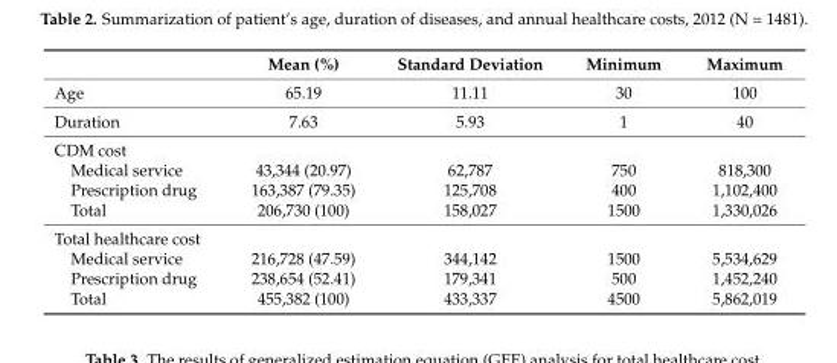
<table><thead><tr><td></td><td>Mean (%)</td><td>Standard Deviation</td><td>Minimum</td><td>Maximum</td></tr></thead><tbody><tr><td>Age</td><td>65.19</td><td>11.11</td><td>30</td><td>100</td></tr><tr><td>Duration</td><td>7.63</td><td>5.93</td><td>1</td><td>40</td></tr><tr><td colspan="5">CDM cost</td></tr><tr><td>Medical service</td><td>43,344 (20.97)</td><td>62,787</td><td>750</td><td>818,300</td></tr><tr><td>Prescription drug</td><td>163,387 (79.35)</td><td>125,708</td><td>400</td><td>1,102,400</td></tr><tr><td>Total</td><td>206,730 (100)</td><td>158,027</td><td>1500</td><td>1,330,026</td></tr><tr><td colspan="5">Total healthcare cost</td></tr><tr><td>Medical service</td><td>216,728 (47.59)</td><td>344,142</td><td>1500</td><td>5,534,629</td></tr><tr><td>Prescription drug</td><td>238,654 (52.41)</td><td>179,341</td><td>500</td><td>1,452,240</td></tr><tr><td>Total</td><td>455,382 (100)</td><td>433,337</td><td>4500</td><td>5,862,019</td></tr></tbody></table>